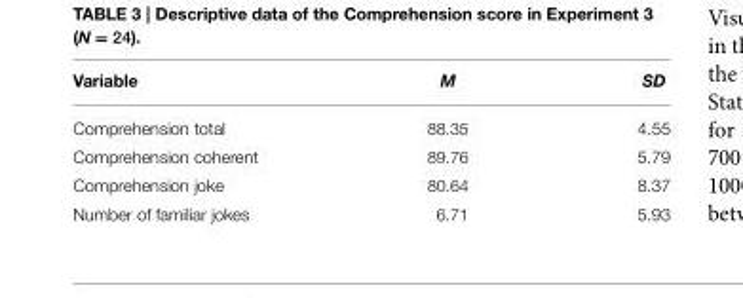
<table><thead><tr><td>Variable</td><td>M</td><td>SD</td></tr></thead><tbody><tr><td>Comprehension total</td><td>88.35</td><td>4.55</td></tr><tr><td>Comprehension coherent</td><td>89.76</td><td>5.79</td></tr><tr><td>Comprehension joke</td><td>80.64</td><td>8.37</td></tr><tr><td>Number of familiar jokes</td><td>6.71</td><td>5.93</td></tr></tbody></table>